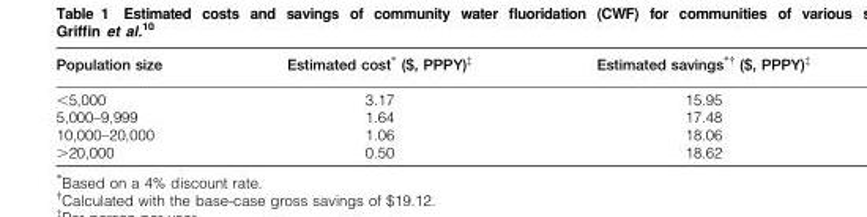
<table><thead><tr><td>Population size</td><td>Estimated cost* ($, PPPY)<sup>‡</sup></td><td>Estimated savings*<sup>†</sup> ($, PPPY)<sup>‡</sup></td></tr></thead><tbody><tr><td>&lt;5,000</td><td>3.17</td><td>15.95</td></tr><tr><td>5,000–9,999</td><td>1.64</td><td>17.48</td></tr><tr><td>10,000–20,000</td><td>1.06</td><td>18.06</td></tr><tr><td>&gt;20,000</td><td>0.50</td><td>18.62</td></tr></tbody></table>